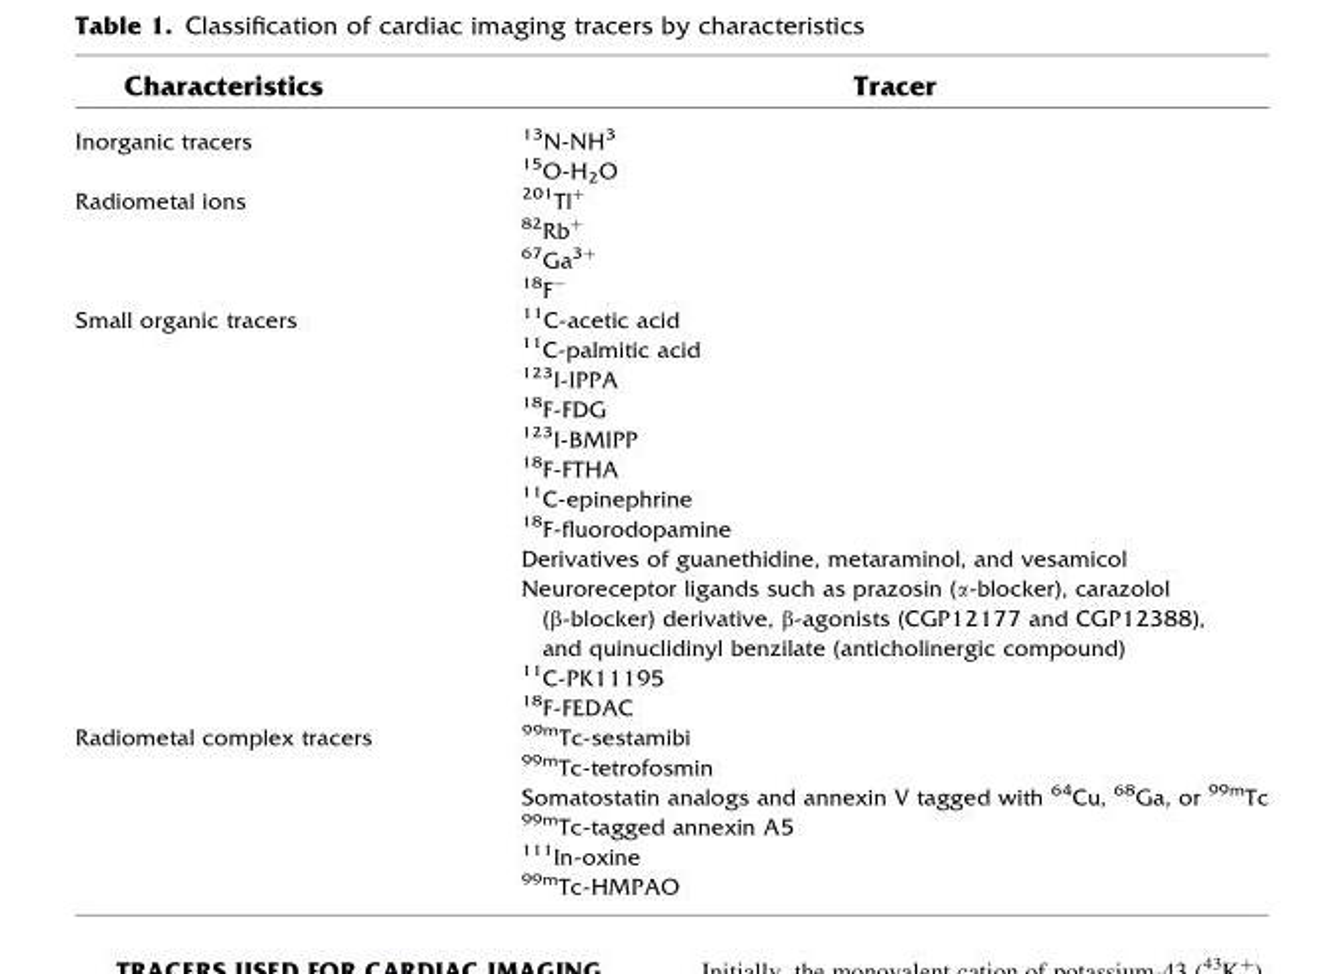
<table><thead><tr><td>Characteristics</td><td>Tracer</td></tr></thead><tbody><tr><td rowspan="2">Inorganic tracers</td><td><sup>13</sup>N-NH<sup>3</sup></td></tr><tr><td><sup>15</sup>O-H<sub>2</sub>O</td></tr><tr><td rowspan="4">Radiometal ions</td><td><sup>201</sup>Tl<sup>+</sup></td></tr><tr><td><sup>82</sup>Rb<sup>+</sup></td></tr><tr><td><sup>67</sup>Ga<sup>3+</sup></td></tr><tr><td><sup>18</sup>F<sup>-</sup></td></tr><tr><td rowspan="11">Small organic tracers</td><td><sup>11</sup>C-acetic acid</td></tr><tr><td><sup>11</sup>C-palmitic acid</td></tr><tr><td><sup>123</sup>I-IPPA</td></tr><tr><td><sup>18</sup>F-FDG</td></tr><tr><td><sup>123</sup>I-BMIPP</td></tr><tr><td><sup>18</sup>F-FTHA</td></tr><tr><td><sup>11</sup>C-epinephrine</td></tr><tr><td><sup>18</sup>F-fluorodopamine</td></tr><tr><td>Derivatives of guanethidine, metaraminol, and vesamicol</td></tr><tr><td>Neuroreceptor ligands such as prazosin (α-blocker), carazolol (β-blocker) derivative, β-agonists (CGP12177 and CGP12388), and quinuclidinyl benzilate (anticholinergic compound)</td></tr><tr><td><sup>11</sup>C-PK11195 <sup>18</sup>F-FEDAC</td></tr><tr><td rowspan="6">Radiometal complex tracers</td><td><sup>99m</sup>Tc-sestamibi</td></tr><tr><td><sup>99m</sup>Tc-tetrofosmin</td></tr><tr><td>Somatostatin analogs and annexin V tagged with <sup>64</sup>Cu, <sup>68</sup>Ga, or <sup>99m</sup>Tc</td></tr><tr><td><sup>99m</sup>Tc-tagged annexin A5</td></tr><tr><td><sup>111</sup>In-oxine</td></tr><tr><td><sup>99m</sup>Tc-HMPAO</td></tr></tbody></table>